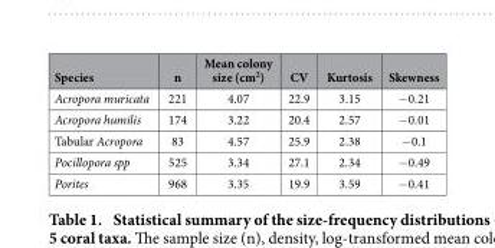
<table><thead><tr><td>Species</td><td>n</td><td>Mean colony size (cm<sup>2</sup>)</td><td>CV</td><td>Kurtosis</td><td>Skewness</td></tr></thead><tbody><tr><td>Acropora muricata</td><td>221</td><td>4.07</td><td>22.9</td><td>3.15</td><td>− 0.21</td></tr><tr><td>Acropora humilis</td><td>174</td><td>3.22</td><td>20.4</td><td>2.57</td><td>− 0.01</td></tr><tr><td>Tabular Acropora</td><td>83</td><td>4.57</td><td>25.9</td><td>2.38</td><td>− 0.1</td></tr><tr><td>Pocillopora spp</td><td>525</td><td>3.34</td><td>27.1</td><td>2.34</td><td>− 0.49</td></tr><tr><td>Porites</td><td>968</td><td>3.35</td><td>19.9</td><td>3.59</td><td>− 0.41</td></tr></tbody></table>